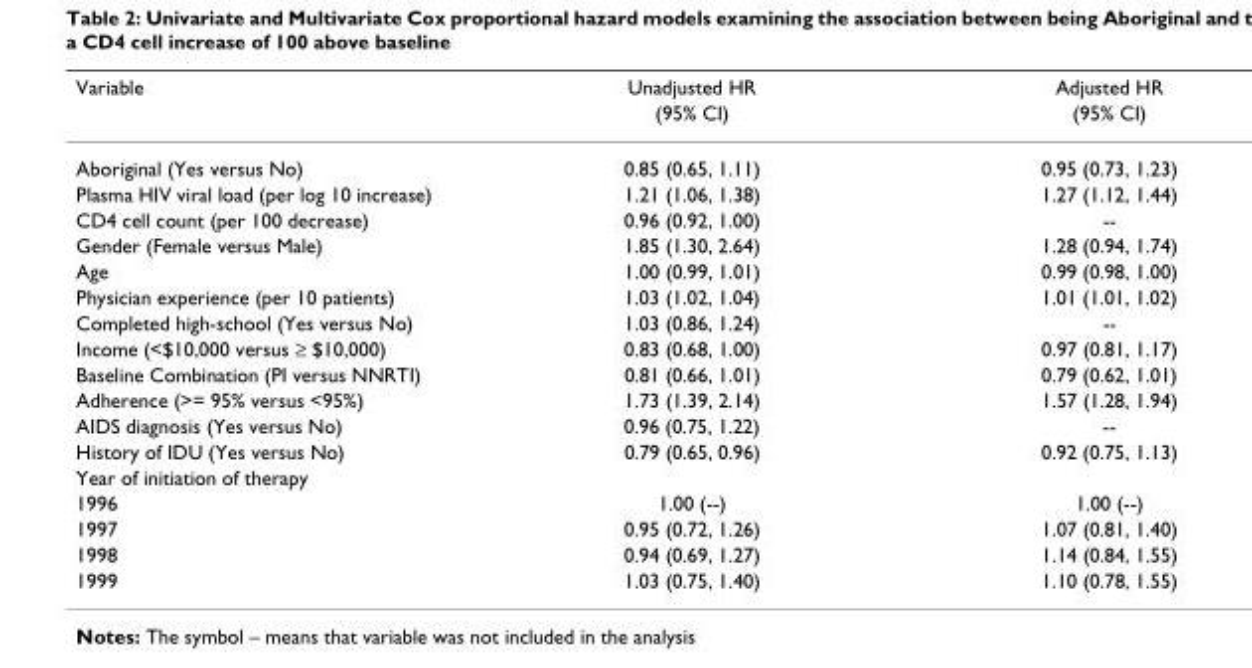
<table><thead><tr><td rowspan="2">Variable</td><td rowspan="2">Unadjusted HR (95% CI)</td><td rowspan="2">Adjusted HR (95% CI)</td></tr><tr></tr></thead><tbody><tr><td>Aboriginal (Yes versus No)</td><td>0.85 (0.65, 1.11)</td><td>0.95 (0.73, 1.23)</td></tr><tr><td>Plasma HIV viral load (per log 10 increase)</td><td>1.21 (1.06, 1.38)</td><td>1.27 (1.12, 1.44)</td></tr><tr><td>CD4 cell count (per 100 decrease)</td><td>0.96 (0.92, 1.00)</td><td>--</td></tr><tr><td>Gender (Female versus Male)</td><td>1.85 (1.30, 2.64)</td><td>1.28 (0.94, 1.74)</td></tr><tr><td>Age</td><td>1.00 (0.99, 1.01)</td><td>0.99 (0.98, 1.00)</td></tr><tr><td>Physician experience (per 10 patients)</td><td>1.03 (1.02, 1.04)</td><td>1.01 (1.01, 1.02)</td></tr><tr><td>Completed high-school (Yes versus No)</td><td>1.03 (0.86, 1.24)</td><td>--</td></tr><tr><td>Income (&lt;$10,000 versus ≥ $10,000)</td><td>0.83 (0.68, 1.00)</td><td>0.97 (0.81, 1.17)</td></tr><tr><td>Baseline Combination (PI versus NNRTI)</td><td>0.81 (0.66, 1.01)</td><td>0.79 (0.62, 1.01)</td></tr><tr><td>Adherence (&gt;= 95% versus &lt;95%)</td><td>1.73 (1.39, 2.14)</td><td>1.57 (1.28, 1.94)</td></tr><tr><td>AIDS diagnosis (Yes versus No)</td><td>0.96 (0.75, 1.22)</td><td>--</td></tr><tr><td>History of IDU (Yes versus No)</td><td>0.79 (0.65, 0.96)</td><td>0.92 (0.75, 1.13)</td></tr><tr><td colspan="3">Year of initiation of therapy</td></tr><tr><td>1996</td><td>1.00 (--)</td><td>1.00 (--)</td></tr><tr><td>1997</td><td>0.95 (0.72, 1.26)</td><td>1.07 (0.81, 1.40)</td></tr><tr><td>1998</td><td>0.94 (0.69, 1.27)</td><td>1.14 (0.84, 1.55)</td></tr><tr><td>1999</td><td>1.03 (0.75, 1.40)</td><td>1.10 (0.78, 1.55)</td></tr></tbody></table>